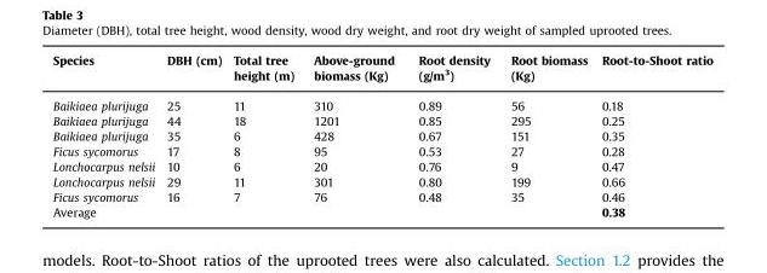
<table><thead><tr><td>Species</td><td>DBH (cm)</td><td>Total tree height (m)</td><td>Above-ground biomass (Kg)</td><td>Root density (g/m<sup>3</sup>)</td><td>Root biomass (Kg)</td><td>Root-to-Shoot ratio</td></tr></thead><tbody><tr><td>Baikiaea plurijuga</td><td>25</td><td>11</td><td>310</td><td>0.89</td><td>56</td><td>0.18</td></tr><tr><td>Baikiaea plurijuga</td><td>44</td><td>18</td><td>1201</td><td>0.85</td><td>295</td><td>0.25</td></tr><tr><td>Baikiaea plurijuga</td><td>35</td><td>6</td><td>428</td><td>0.67</td><td>151</td><td>0.35</td></tr><tr><td>Ficus sycomorus</td><td>17</td><td>8</td><td>95</td><td>0.53</td><td>27</td><td>0.28</td></tr><tr><td>Lonchocarpus nelsii</td><td>10</td><td>6</td><td>20</td><td>0.76</td><td>9</td><td>0.47</td></tr><tr><td>Lonchocarpus nelsii</td><td>29</td><td>11</td><td>301</td><td>0.80</td><td>199</td><td>0.66</td></tr><tr><td>Ficus sycomorus</td><td>16</td><td>7</td><td>76</td><td>0.48</td><td>35</td><td>0.46</td></tr><tr><td>Average</td><td></td><td></td><td></td><td></td><td></td><td>0.38</td></tr></tbody></table>